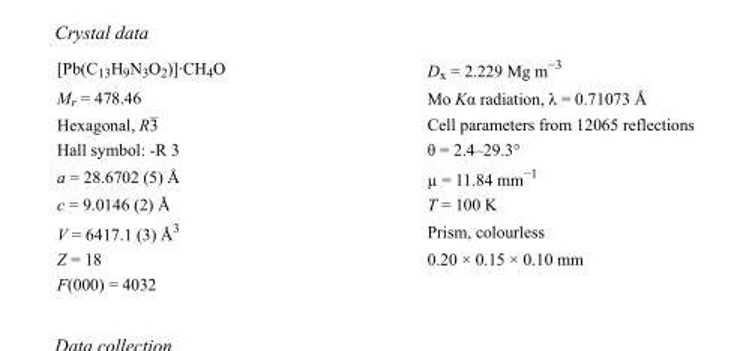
<table><tbody><tr><td>[Pb(C<sub>13</sub>H<sub>9</sub>N<sub>3</sub>O<sub>2</sub>)]·CH<sub>4</sub>O</td><td>D<sub>x</sub> = 2.229 Mg m<sup>−3</sup></td></tr><tr><td>M<sub>r</sub> = 478.46</td><td>Mo Kα radiation, λ = 0.71073 Å</td></tr><tr><td>Hexagonal, R3</td><td>Cell parameters from 12065 reflections</td></tr><tr><td>Hall symbol: -R 3</td><td>θ = 2.4–29.3°</td></tr><tr><td>a = 28.6702 (5) Å</td><td>µ = 11.84 mm<sup>−1</sup></td></tr><tr><td>c = 9.0146 (2) Å</td><td>T = 100 K</td></tr><tr><td>V = 6417.1 (3) Å<sup>3</sup></td><td>Prism, colourless</td></tr><tr><td>Z = 18</td><td>0.20 × 0.15 × 0.10 mm</td></tr><tr><td>F(000) = 4032</td><td></td></tr></tbody></table>